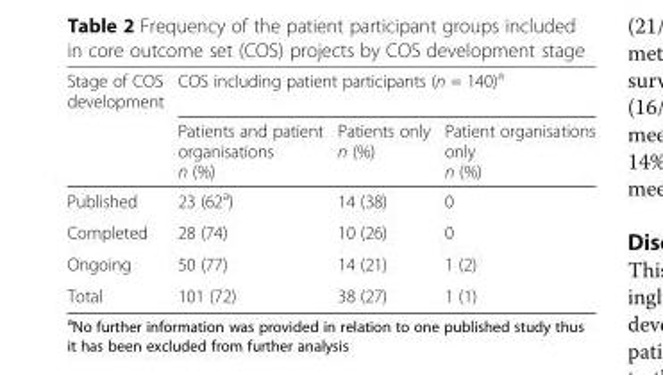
<table><thead><tr><td rowspan="2">Stage of COS development</td><td colspan="3">COS including patient participants (n = 140)<sup>a</sup></td></tr><tr><td>Patients and patient organisations n (%)</td><td>Patients only n (%)</td><td>Patient organisations only n (%)</td></tr></thead><tbody><tr><td>Published</td><td>23 (62<sup>a</sup>)</td><td>14 (38)</td><td>0</td></tr><tr><td>Completed</td><td>28 (74)</td><td>10 (26)</td><td>0</td></tr><tr><td>Ongoing</td><td>50 (77)</td><td>14 (21)</td><td>1 (2)</td></tr><tr><td>Total</td><td>101 (72)</td><td>38 (27)</td><td>1 (1)</td></tr></tbody></table>